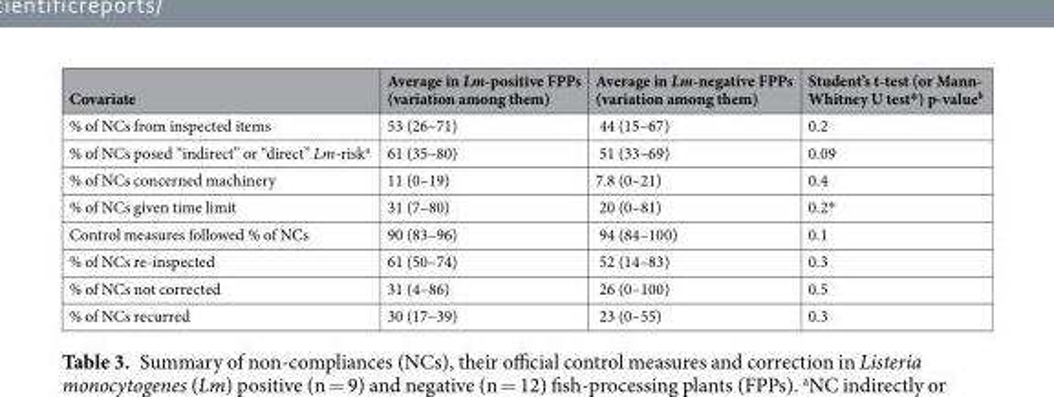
<table><thead><tr><td>Covariate</td><td>Average in Lm-positive FPPs (variation among them)</td><td>Average in Lm-negative FPPs (variation among them)</td><td>Student’s t-test (or Mann- Whitney U test*) p-value<sup>b</sup></td></tr></thead><tbody><tr><td>% of NCs from inspected items</td><td>53 (26–71)</td><td>44 (15–67)</td><td>0.2</td></tr><tr><td>% of NCs posed “indirect” or “direct” Lm-risk<sup>a</sup></td><td>61 (35–80)</td><td>51 (33–69)</td><td>0.09</td></tr><tr><td>% of NCs concerned machinery</td><td>11 (0–19)</td><td>7.8 (0–21)</td><td>0.4</td></tr><tr><td>% of NCs given time limit</td><td>31 (7–80)</td><td>20 (0–81)</td><td>0.2*</td></tr><tr><td>Control measures followed % of NCs</td><td>90 (83–96)</td><td>94 (84–100)</td><td>0.1</td></tr><tr><td>% of NCs re-inspected</td><td>61 (50–74)</td><td>52 (14–83)</td><td>0.3</td></tr><tr><td>% of NCs not corrected</td><td>31 (4–86)</td><td>26 (0–100)</td><td>0.5</td></tr><tr><td>% of NCs recurred</td><td>30 (17–39)</td><td>23 (0–55)</td><td>0.3</td></tr></tbody></table>